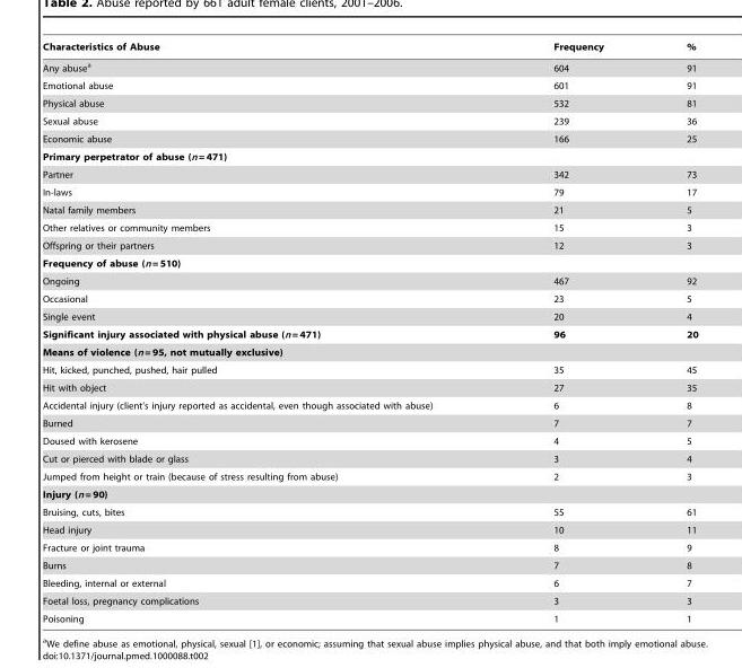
<table><thead><tr><td>Characteristics of Abuse</td><td>Frequency</td><td>%</td></tr></thead><tbody><tr><td>Any abuse<sup>a</sup></td><td>604</td><td>91</td></tr><tr><td>Emotional abuse</td><td>601</td><td>91</td></tr><tr><td>Physical abuse</td><td>532</td><td>81</td></tr><tr><td>Sexual abuse</td><td>239</td><td>36</td></tr><tr><td>Economic abuse</td><td>166</td><td>25</td></tr><tr><td colspan="3">Primary perpetrator of abuse (n = 471)</td></tr><tr><td>Partner</td><td>342</td><td>73</td></tr><tr><td>In-laws</td><td>79</td><td>17</td></tr><tr><td>Natal family members</td><td>21</td><td>5</td></tr><tr><td>Other relatives or community members</td><td>15</td><td>3</td></tr><tr><td>Offspring or their partners</td><td>12</td><td>3</td></tr><tr><td colspan="3">Frequency of abuse (n = 510)</td></tr><tr><td>Ongoing</td><td>467</td><td>92</td></tr><tr><td>Occasional</td><td>23</td><td>5</td></tr><tr><td>Single event</td><td>20</td><td>4</td></tr><tr><td>Significant injury associated with physical abuse (n = 471)</td><td>96</td><td>20</td></tr><tr><td colspan="3">Means of violence (n = 95, not mutually exclusive)</td></tr><tr><td>Hit, kicked, punched, pushed, hair pulled</td><td>35</td><td>45</td></tr><tr><td>Hit with object</td><td>27</td><td>35</td></tr><tr><td>Accidental injury (client’s injury reported as accidental, even though associated with abuse)</td><td>6</td><td>8</td></tr><tr><td>Burned</td><td>7</td><td>7</td></tr><tr><td>Doused with kerosene</td><td>4</td><td>5</td></tr><tr><td>Cut or pierced with blade or glass</td><td>3</td><td>4</td></tr><tr><td>Jumped from height or train (because of stress resulting from abuse)</td><td>2</td><td>3</td></tr><tr><td colspan="3">Injury (n = 90)</td></tr><tr><td>Bruising, cuts, bites</td><td>55</td><td>61</td></tr><tr><td>Head injury</td><td>10</td><td>11</td></tr><tr><td>Fracture or joint trauma</td><td>8</td><td>9</td></tr><tr><td>Burns</td><td>7</td><td>8</td></tr><tr><td>Bleeding, internal or external</td><td>6</td><td>7</td></tr><tr><td>Foetal loss, pregnancy complications</td><td>3</td><td>3</td></tr><tr><td>Poisoning</td><td>1</td><td>1</td></tr></tbody></table>